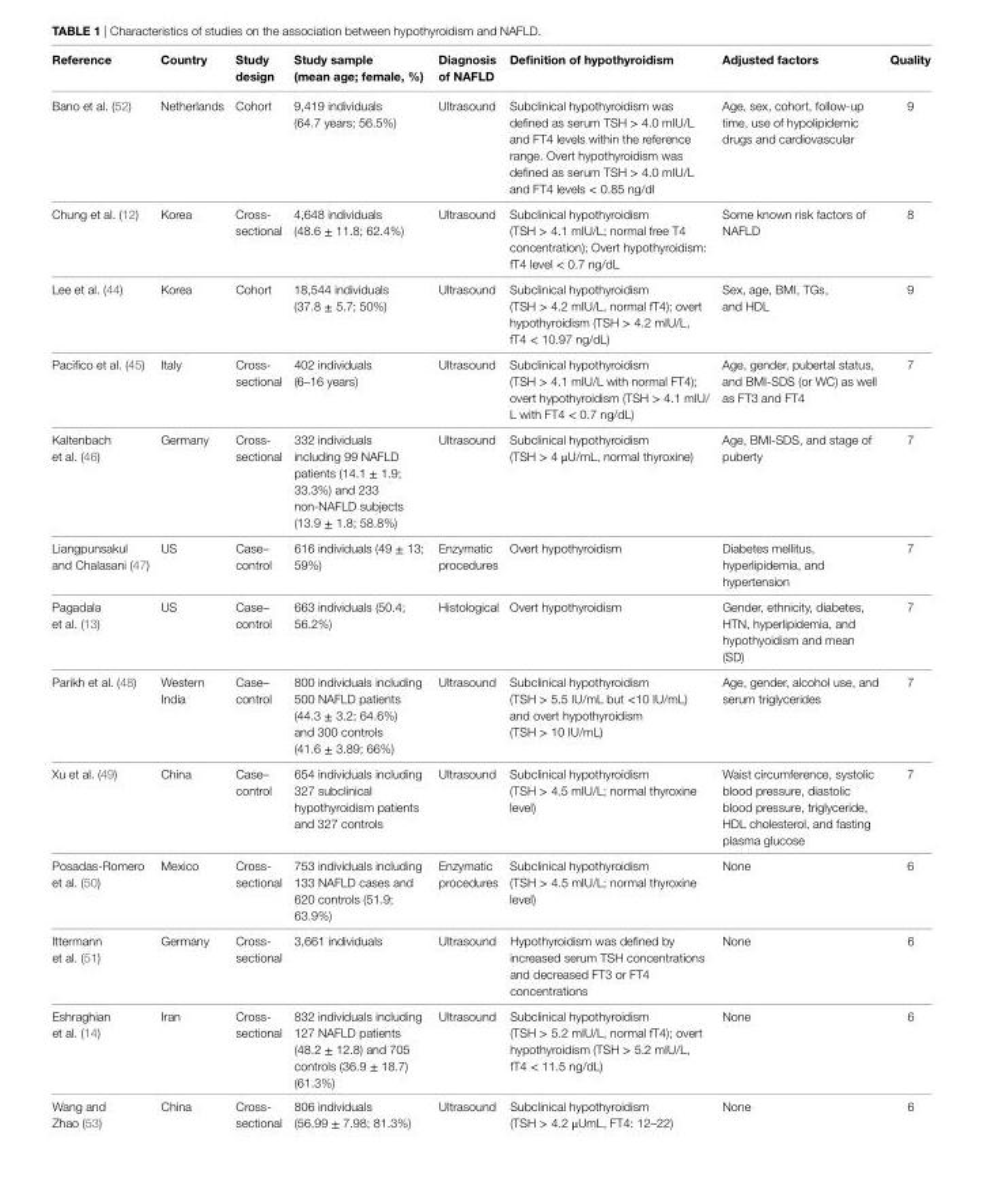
<table><thead><tr><td>reference</td><td>country</td><td>study design</td><td>study sample (mean age; female, %)</td><td>Diagnosis of naFlD</td><td>Definition of hypothyroidism</td><td>adjusted factors</td><td>Quality</td></tr></thead><tbody><tr><td>Bano et al. (52)</td><td>Netherlands</td><td>Cohort</td><td>9,419 individuals (64.7 years; 56.5%)</td><td>Ultrasound</td><td>Subclinical hypothyroidism was defined as serum TSH &gt; 4.0 mIU/L and FT4 levels within the reference range. Overt hypothyroidism was defined as serum TSH &gt; 4.0 mIU/L and FT4 levels &lt; 0.85 ng/dl</td><td>Age, sex, cohort, follow-up time, use of hypolipidemic drugs and cardiovascular</td><td>9</td></tr><tr><td>Chung et al. (12)</td><td>Korea</td><td>Cross- sectional</td><td>4,648 individuals (48.6 ± 11.8; 62.4%)</td><td>Ultrasound</td><td>Subclinical hypothyroidism (TSH &gt; 4.1 mIU/L; normal free T4 concentration); Overt hypothyroidism: fT4 level &lt; 0.7 ng/dL</td><td>Some known risk factors of NAFLD</td><td>8</td></tr><tr><td>Lee et al. (44)</td><td>Korea</td><td>Cohort</td><td>18,544 individuals (37.8 ± 5.7; 50%)</td><td>Ultrasound</td><td>Subclinical hypothyroidism (TSH &gt; 4.2 mIU/L, normal fT4); overt hypothyroidism (TSH &gt; 4.2 mIU/L, fT4 &lt; 10.97 ng/dL)</td><td>Sex, age, BMI, TGs, and HDL</td><td>9</td></tr><tr><td>Pacifico et al. (45)</td><td>Italy</td><td>Cross- sectional</td><td>402 individuals (6–16 years)</td><td>Ultrasound</td><td>Subclinical hypothyroidism (TSH &gt; 4.1 mIU/L with normal FT4); overt hypothyroidism (TSH &gt; 4.1 mIU/ L with FT4 &lt; 0.7 ng/dL)</td><td>Age, gender, pubertal status, and BMI-SDS (or WC) as well as FT3 and FT4</td><td>7</td></tr><tr><td>Kaltenbach et al. (46)</td><td>Germany</td><td>Cross- sectional</td><td>332 individuals including 99 NAFLD patients (14.1 ± 1.9; 33.3%) and 233 non-NAFLD subjects (13.9 ± 1.8; 58.8%)</td><td>Ultrasound</td><td>Subclinical hypothyroidism (TSH &gt; 4 μU/mL, normal thyroxine)</td><td>Age, BMI-SDS, and stage of puberty</td><td>7</td></tr><tr><td>Liangpunsakul and Chalasani (47)</td><td>US</td><td>Case– control</td><td>616 individuals (49 ± 13; 59%)</td><td>Enzymatic procedures</td><td>Overt hypothyroidism</td><td>Diabetes mellitus, hyperlipidemia, and hypertension</td><td>7</td></tr><tr><td>Pagadala et al. (13)</td><td>US</td><td>Case– control</td><td>663 individuals (50.4; 56.2%)</td><td>Histological</td><td>Overt hypothyroidism</td><td>Gender, ethnicity, diabetes, HTN, hyperlipidemia, and hypothyoidism and mean (SD)</td><td>7</td></tr><tr><td>Parikh et al. (48)</td><td>Western India</td><td>Case– control</td><td>800 individuals including 500 NAFLD patients (44.3 ± 3.2; 64.6%) and 300 controls (41.6 ± 3.89; 66%)</td><td>Ultrasound</td><td>Subclinical hypothyroidism (TSH &gt; 5.5 IU/mL but &lt;10 IU/mL) and overt hypothyroidism (TSH &gt; 10 IU/mL)</td><td>Age, gender, alcohol use, and serum triglycerides</td><td>7</td></tr><tr><td>Xu et al. (49)</td><td>China</td><td>Case– control</td><td>654 individuals including 327 subclinical hypothyroidism patients and 327 controls</td><td>Ultrasound</td><td>Subclinical hypothyroidism (TSH &gt; 4.5 mIU/L; normal thyroxine level)</td><td>Waist circumference, systolic blood pressure, diastolic blood pressure, triglyceride, HDL cholesterol, and fasting plasma glucose</td><td>7</td></tr><tr><td>Posadas-Romero et al. (50)</td><td>Mexico</td><td>Cross- sectional</td><td>753 individuals including 133 NAFLD cases and 620 controls (51.9; 63.9%)</td><td>Enzymatic procedures</td><td>Subclinical hypothyroidism (TSH &gt; 4.5 mIU/L; normal thyroxine level)</td><td>None</td><td>6</td></tr><tr><td>Ittermann et al. (51)</td><td>Germany</td><td>Cross- sectional</td><td>3,661 individuals</td><td>Ultrasound</td><td>Hypothyroidism was defined by increased serum TSH concentrations and decreased FT3 or FT4 concentrations</td><td>None</td><td>6</td></tr><tr><td>Eshraghian et al. (14)</td><td>Iran</td><td>Cross- sectional</td><td>832 individuals including 127 NAFLD patients (48.2 ± 12.8) and 705 controls (36.9 ± 18.7) (61.3%)</td><td>Ultrasound</td><td>Subclinical hypothyroidism (TSH &gt; 5.2 mIU/L, normal fT4); overt hypothyroidism (TSH &gt; 5.2 mIU/L, fT4 &lt; 11.5 ng/dL)</td><td>None</td><td>6</td></tr><tr><td>Wang and Zhao (53)</td><td>China</td><td>Cross- sectional</td><td>806 individuals (56.99 ± 7.98; 81.3%)</td><td>Ultrasound</td><td>Subclinical hypothyroidism (TSH &gt; 4.2 μUmL, FT4: 12–22)</td><td>None</td><td>6</td></tr></tbody></table>